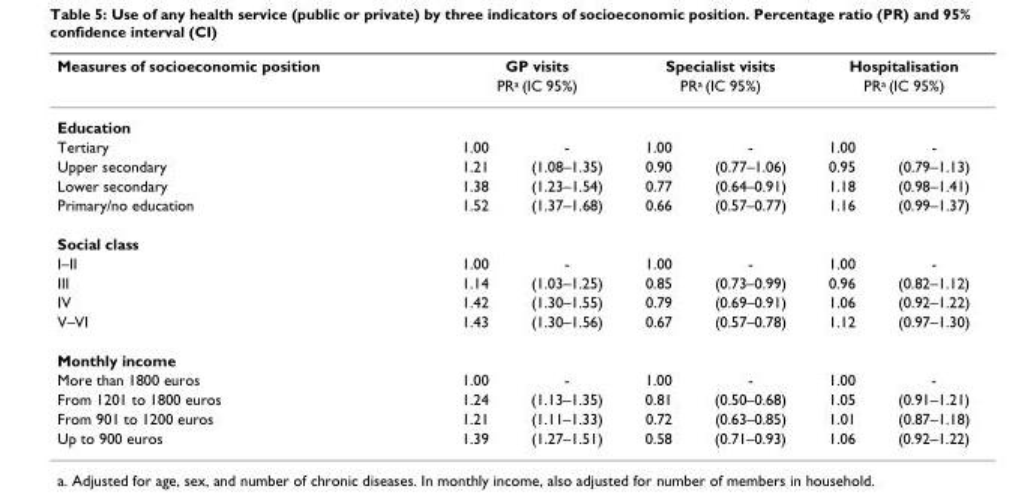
<table><thead><tr><td rowspan="3">Measures of socioeconomic position Education</td><td rowspan="2" colspan="2">GP visits PR<sup>a</sup> (IC 95%)</td><td rowspan="2" colspan="2">Specialist visits PR<sup>a</sup> (IC 95%)</td><td rowspan="2" colspan="2">Hospitalisation PR<sup>a</sup> (IC 95%)</td></tr><tr></tr><tr><td></td><td></td><td></td><td></td><td></td><td></td></tr></thead><tbody><tr><td>Tertiary</td><td>1.00</td><td>-</td><td>1.00</td><td>-</td><td>1.00</td><td>-</td></tr><tr><td>Upper secondary</td><td>1.21</td><td>(1.08–1.35)</td><td>0.90</td><td>(0.77–1.06)</td><td>0.95</td><td>(0.79–1.13)</td></tr><tr><td>Lower secondary</td><td>1.38</td><td>(1.23–1.54)</td><td>0.77</td><td>(0.64–0.91)</td><td>1.18</td><td>(0.98–1.41)</td></tr><tr><td>Primary/no education</td><td>1.52</td><td>(1.37–1.68)</td><td>0.66</td><td>(0.57–0.77)</td><td>1.16</td><td>(0.99–1.37)</td></tr><tr><td colspan="7">Social class</td></tr><tr><td>I–II</td><td>1.00</td><td>-</td><td>1.00</td><td>-</td><td>1.00</td><td>-</td></tr><tr><td>III</td><td>1.14</td><td>(1.03–1.25)</td><td>0.85</td><td>(0.73–0.99)</td><td>0.96</td><td>(0.82–1.12)</td></tr><tr><td>IV</td><td>1.42</td><td>(1.30–1.55)</td><td>0.79</td><td>(0.69–0.91)</td><td>1.06</td><td>(0.92–1.22)</td></tr><tr><td>V–VI</td><td>1.43</td><td>(1.30–1.56)</td><td>0.67</td><td>(0.57–0.78)</td><td>1.12</td><td>(0.97–1.30)</td></tr><tr><td colspan="7">Monthly income</td></tr><tr><td>More than 1800 euros</td><td>1.00</td><td>-</td><td>1.00</td><td>-</td><td>1.00</td><td>-</td></tr><tr><td>From 1201 to 1800 euros</td><td>1.24</td><td>(1.13–1.35)</td><td>0.81</td><td>(0.50–0.68)</td><td>1.05</td><td>(0.91–1.21)</td></tr><tr><td>From 901 to 1200 euros</td><td>1.21</td><td>(1.11–1.33)</td><td>0.72</td><td>(0.63–0.85)</td><td>1.01</td><td>(0.87–1.18)</td></tr><tr><td>Up to 900 euros</td><td>1.39</td><td>(1.27–1.51)</td><td>0.58</td><td>(0.71–0.93)</td><td>1.06</td><td>(0.92–1.22)</td></tr></tbody></table>